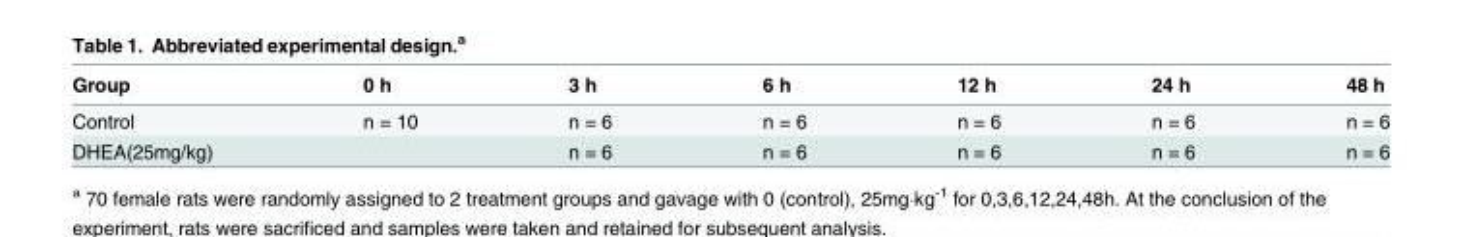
<table><thead><tr><td>Group</td><td>0 h</td><td>3 h</td><td>6 h</td><td>12 h</td><td>24 h</td><td>48 h</td></tr></thead><tbody><tr><td>Control</td><td>n = 10</td><td>n = 6</td><td>n = 6</td><td>n = 6</td><td>n = 6</td><td>n = 6</td></tr><tr><td>DHEA(25mg/kg)</td><td></td><td>n = 6</td><td>n = 6</td><td>n = 6</td><td>n = 6</td><td>n = 6</td></tr></tbody></table>